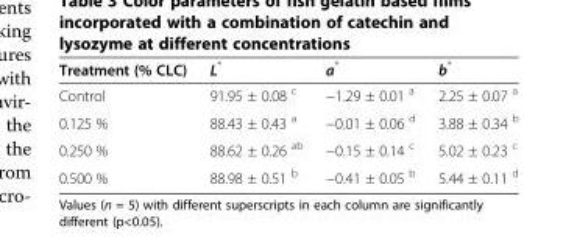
<table><thead><tr><td>Treatment (% CLC)</td><td>L*</td><td>a*</td><td>b*</td></tr></thead><tbody><tr><td>Control</td><td>91.95 ± 0.08 <sup>c</sup></td><td>−1.29 ± 0.01 <sup>a</sup></td><td>2.25 ± 0.07 <sup>a</sup></td></tr><tr><td>0.125 %</td><td>88.43 ± 0.43 <sup>a</sup></td><td>−0.01 ± 0.06 <sup>d</sup></td><td>3.88 ± 0.34 <sup>b</sup></td></tr><tr><td>0.250 %</td><td>88.62 ± 0.26 <sup>ab</sup></td><td>−0.15 ± 0.14 <sup>c</sup></td><td>5.02 ± 0.23 <sup>c</sup></td></tr><tr><td>0.500 %</td><td>88.98 ± 0.51 <sup>b</sup></td><td>−0.41 ± 0.05 <sup>b</sup></td><td>5.44 ± 0.11 <sup>d</sup></td></tr></tbody></table>